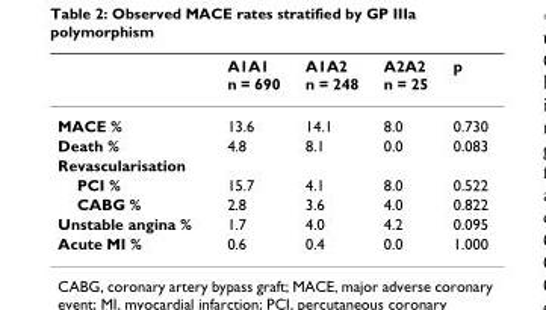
<table><thead><tr><td></td><td>A1A1 n = 690</td><td>A1A2 n = 248</td><td>A2A2 n = 25</td><td>p</td></tr></thead><tbody><tr><td>MACE %</td><td>13.6</td><td>14.1</td><td>8.0</td><td>0.730</td></tr><tr><td>Death %</td><td>4.8</td><td>8.1</td><td>0.0</td><td>0.083</td></tr><tr><td colspan="5">Revascularisation</td></tr><tr><td>PCI %</td><td>15.7</td><td>4.1</td><td>8.0</td><td>0.522</td></tr><tr><td>CABG %</td><td>2.8</td><td>3.6</td><td>4.0</td><td>0.822</td></tr><tr><td>Unstable angina %</td><td>1.7</td><td>4.0</td><td>4.2</td><td>0.095</td></tr><tr><td>Acute MI %</td><td>0.6</td><td>0.4</td><td>0.0</td><td>1.000</td></tr></tbody></table>